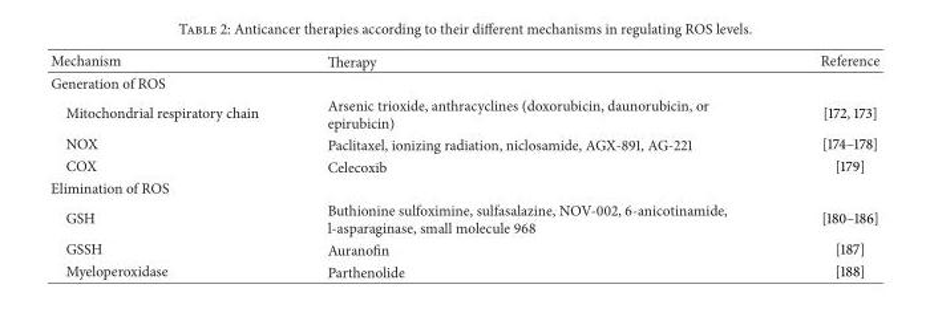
<table><thead><tr><td>Mechanism</td><td>Therapy</td><td>Reference</td></tr></thead><tbody><tr><td colspan="3">Generation of ROS</td></tr><tr><td>Mitochondrial respiratory chain</td><td>Arsenic trioxide, anthracyclines (doxorubicin, daunorubicin, or epirubicin)</td><td>[172, 173]</td></tr><tr><td>NOX</td><td>Paclitaxel, ionizing radiation, niclosamide, AGX-891, AG-221</td><td>[174–178]</td></tr><tr><td>COX</td><td>Celecoxib</td><td>[179]</td></tr><tr><td colspan="3">Elimination of ROS</td></tr><tr><td>GSH</td><td>Buthionine sulfoximine, sulfasalazine, NOV-002, 6-anicotinamide, l-asparaginase, small molecule 968</td><td>[180–186]</td></tr><tr><td>GSSH</td><td>Auranofin</td><td>[187]</td></tr><tr><td>Myeloperoxidase</td><td>Parthenolide</td><td>[188]</td></tr></tbody></table>